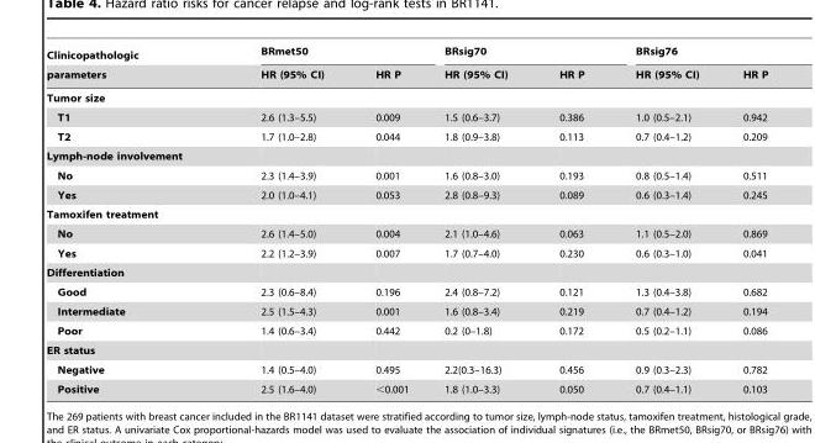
<table><thead><tr><td rowspan="2">Clinicopathologic parameters</td><td colspan="2">BRmet50</td><td colspan="2">BRsig70</td><td colspan="2">BRsig76</td></tr><tr><td>HR (95% CI)</td><td>HR P</td><td>HR (95% CI)</td><td>HR P</td><td>HR (95% CI)</td><td>HR P</td></tr></thead><tbody><tr><td colspan="7">Tumor size</td></tr><tr><td>T1</td><td>2.6 (1.3–5.5)</td><td>0.009</td><td>1.5 (0.6–3.7)</td><td>0.386</td><td>1.0 (0.5–2.1)</td><td>0.942</td></tr><tr><td>T2</td><td>1.7 (1.0–2.8)</td><td>0.044</td><td>1.8 (0.9–3.8)</td><td>0.113</td><td>0.7 (0.4–1.2)</td><td>0.209</td></tr><tr><td colspan="7">Lymph-node involvement</td></tr><tr><td>No</td><td>2.3 (1.4–3.9)</td><td>0.001</td><td>1.6 (0.8–3.0)</td><td>0.193</td><td>0.8 (0.5–1.4)</td><td>0.511</td></tr><tr><td>Yes</td><td>2.0 (1.0–4.1)</td><td>0.053</td><td>2.8 (0.8–9.3)</td><td>0.089</td><td>0.6 (0.3–1.4)</td><td>0.245</td></tr><tr><td colspan="7">Tamoxifen treatment</td></tr><tr><td>No</td><td>2.6 (1.4–5.0)</td><td>0.004</td><td>2.1 (1.0–4.6)</td><td>0.063</td><td>1.1 (0.5–2.0)</td><td>0.869</td></tr><tr><td>Yes</td><td>2.2 (1.2–3.9)</td><td>0.007</td><td>1.7 (0.7–4.0)</td><td>0.230</td><td>0.6 (0.3–1.0)</td><td>0.041</td></tr><tr><td colspan="7">Differentiation</td></tr><tr><td>Good</td><td>2.3 (0.6–8.4)</td><td>0.196</td><td>2.4 (0.8–7.2)</td><td>0.121</td><td>1.3 (0.4–3.8)</td><td>0.682</td></tr><tr><td>Intermediate</td><td>2.5 (1.5–4.3)</td><td>0.001</td><td>1.6 (0.8–3.4)</td><td>0.219</td><td>0.7 (0.4–1.2)</td><td>0.194</td></tr><tr><td>Poor</td><td>1.4 (0.6–3.4)</td><td>0.442</td><td>0.2 (0–1.8)</td><td>0.172</td><td>0.5 (0.2–1.1)</td><td>0.086</td></tr><tr><td colspan="7">ER status</td></tr><tr><td>Negative</td><td>1.4 (0.5–4.0)</td><td>0.495</td><td>2.2(0.3–16.3)</td><td>0.456</td><td>0.9 (0.3–2.3)</td><td>0.782</td></tr><tr><td>Positive</td><td>2.5 (1.6–4.0)</td><td>&lt;0.001</td><td>1.8 (1.0–3.3)</td><td>0.050</td><td>0.7 (0.4–1.1)</td><td>0.103</td></tr></tbody></table>